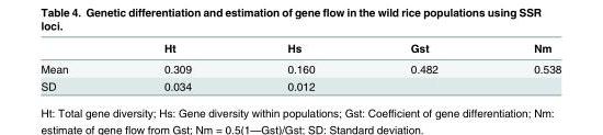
<table><thead><tr><td></td><td>Ht</td><td>Hs</td><td>Gst</td><td>Nm</td></tr></thead><tbody><tr><td>Mean</td><td>0.309</td><td>0.160</td><td>0.482</td><td>0.538</td></tr><tr><td>SD</td><td>0.034</td><td>0.012</td><td></td><td></td></tr></tbody></table>